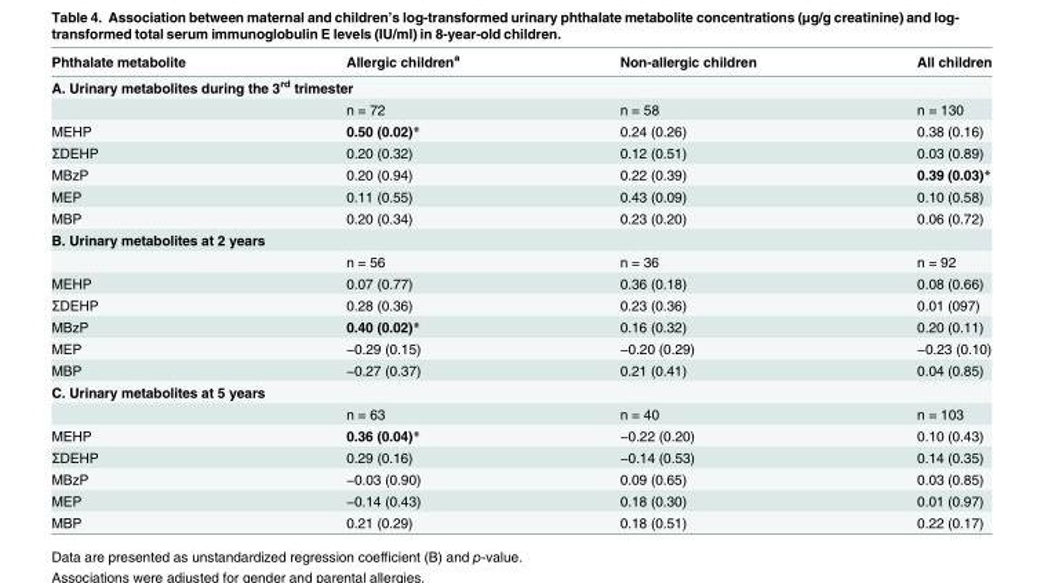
<table><thead><tr><td>Phthalate metabolite</td><td>Allergic children<sup>a</sup></td><td>Non-allergic children</td><td>All children</td></tr></thead><tbody><tr><td colspan="4">A. Urinary metabolites during the 3<sup>rd</sup> trimester</td></tr><tr><td></td><td>n = 72</td><td>n = 58</td><td>n = 130</td></tr><tr><td>MEHP</td><td>0.50 (0.02)*</td><td>0.24 (0.26)</td><td>0.38 (0.16)</td></tr><tr><td>ΣDEHP</td><td>0.20 (0.32)</td><td>0.12 (0.51)</td><td>0.03 (0.89)</td></tr><tr><td>MBzP</td><td>0.20 (0.94)</td><td>0.22 (0.39)</td><td>0.39 (0.03)*</td></tr><tr><td>MEP</td><td>0.11 (0.55)</td><td>0.43 (0.09)</td><td>0.10 (0.58)</td></tr><tr><td>MBP</td><td>0.20 (0.34)</td><td>0.23 (0.20)</td><td>0.06 (0.72)</td></tr><tr><td colspan="4">B. Urinary metabolites at 2 years</td></tr><tr><td></td><td>n = 56</td><td>n = 36</td><td>n = 92</td></tr><tr><td>MEHP</td><td>0.07 (0.77)</td><td>0.36 (0.18)</td><td>0.08 (0.66)</td></tr><tr><td>ΣDEHP</td><td>0.28 (0.36)</td><td>0.23 (0.36)</td><td>0.01 (097)</td></tr><tr><td>MBzP</td><td>0.40 (0.02)*</td><td>0.16 (0.32)</td><td>0.20 (0.11)</td></tr><tr><td>MEP</td><td>−0.29 (0.15)</td><td>−0.20 (0.29)</td><td>−0.23 (0.10)</td></tr><tr><td>MBP</td><td>−0.27 (0.37)</td><td>0.21 (0.41)</td><td>0.04 (0.85)</td></tr><tr><td colspan="4">C. Urinary metabolites at 5 years</td></tr><tr><td></td><td>n = 63</td><td>n = 40</td><td>n = 103</td></tr><tr><td>MEHP</td><td>0.36 (0.04)*</td><td>−0.22 (0.20)</td><td>0.10 (0.43)</td></tr><tr><td>ΣDEHP</td><td>0.29 (0.16)</td><td>−0.14 (0.53)</td><td>0.14 (0.35)</td></tr><tr><td>MBzP</td><td>−0.03 (0.90)</td><td>0.09 (0.65)</td><td>0.03 (0.85)</td></tr><tr><td>MEP</td><td>−0.14 (0.43)</td><td>0.18 (0.30)</td><td>0.01 (0.97)</td></tr><tr><td>MBP</td><td>0.21 (0.29)</td><td>0.18 (0.51)</td><td>0.22 (0.17)</td></tr></tbody></table>